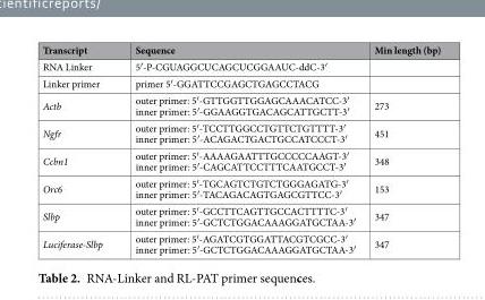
<table><thead><tr><td>Transcript</td><td>Sequence</td><td>Min length (bp)</td></tr></thead><tbody><tr><td>RNA Linker</td><td>5′-P-CGUAGGCUCAGCUCGGAAUC-ddC-3′</td><td></td></tr><tr><td>Linker primer</td><td>primer 5′-GGATTCCGAGCTGAGCCTACG</td><td></td></tr><tr><td>Actb</td><td>outer primer: 5′-GTTGGTTGGAGCAAACATCC-3′ inner primer: 5′-GGAAGGTGACAGCATTGCTT-3′</td><td>273</td></tr><tr><td>Ngfr</td><td>outer primer: 5′-TCCTTGGCCTGTTCTGTTTT-3′ inner primer: 5′-ACAGACTGACTGCCATCCCT-3′</td><td>451</td></tr><tr><td>Ccbn1</td><td>outer primer: 5′-AAAAGAATTTGCCCCCAAGT-3′ inner primer: 5′-CAGCATTCCTTTCAATGCCT-3′</td><td>348</td></tr><tr><td>Orc6</td><td>outer primer: 5′-TGCAGTCTGTCTGGGAGATG-3′ inner primer: 5′-TACAGACAGTGAGCGTTCC-3′</td><td>153</td></tr><tr><td>Slbp</td><td>outer primer: 5′-GCCTTCAGTTGCCACTTTTC-3′ inner primer: 5′-GCTCTGGACAAAGGATGCTAA-3′</td><td>347</td></tr><tr><td>Luciferase-Slbp</td><td>outer primer: 5′-AGATCGTGGATTACGTCGCC-3′ inner primer: 5′-GCTCTGGACAAAGGATGCTAA-3′</td><td>347</td></tr></tbody></table>